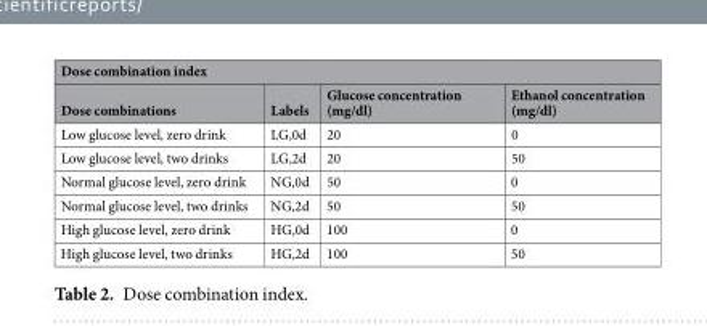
<table><thead><tr><td colspan="4">Dose combination index</td></tr><tr><td>Dose combinations</td><td>Labels</td><td>Glucose concentration (mg/dl)</td><td>Ethanol concentration (mg/dl)</td></tr></thead><tbody><tr><td>Low glucose level, zero drink</td><td>LG,0d</td><td>20</td><td>0</td></tr><tr><td>Low glucose level, two drinks</td><td>LG,2d</td><td>20</td><td>50</td></tr><tr><td>Normal glucose level, zero drink</td><td>NG,0d</td><td>50</td><td>0</td></tr><tr><td>Normal glucose level, two drinks</td><td>NG,2d</td><td>50</td><td>50</td></tr><tr><td>High glucose level, zero drink</td><td>HG,0d</td><td>100</td><td>0</td></tr><tr><td>High glucose level, two drinks</td><td>HG,2d</td><td>100</td><td>50</td></tr></tbody></table>